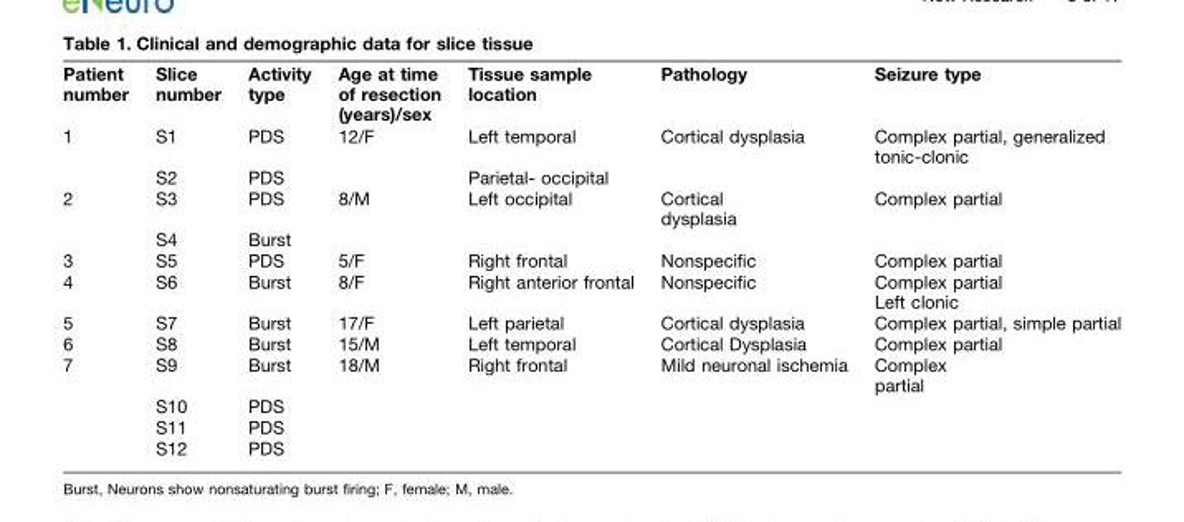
<table><tbody><tr><td>Patient number</td><td>Slice number</td><td>Activity type</td><td>Age at time of resection (years)/sex</td><td>Tissue sample location</td><td>Pathology</td><td>Seizure type</td></tr><tr><td rowspan="2">1</td><td>S1</td><td>PDS</td><td>12/F</td><td>Left temporal</td><td>Cortical dysplasia</td><td>Complex partial, generalized tonic-clonic</td></tr><tr><td>S2</td><td>PDS</td><td></td><td>Parietal- occipital</td><td></td><td></td></tr><tr><td rowspan="2">2</td><td>S3</td><td>PDS</td><td>8/M</td><td>Left occipital</td><td>Cortical dysplasia</td><td>Complex partial</td></tr><tr><td>S4</td><td>Burst</td><td></td><td></td><td></td><td></td></tr><tr><td>3</td><td>S5</td><td>PDS</td><td>5/F</td><td>Right frontal</td><td>Nonspecific</td><td>Complex partial</td></tr><tr><td>4</td><td>S6</td><td>Burst</td><td>8/F</td><td>Right anterior frontal</td><td>Nonspecific</td><td>Complex partial Left clonic</td></tr><tr><td>5</td><td>S7</td><td>Burst</td><td>17/F</td><td>Left parietal</td><td>Cortical dysplasia</td><td>Complex partial, simple partial</td></tr><tr><td>6</td><td>S8</td><td>Burst</td><td>15/M</td><td>Left temporal</td><td>Cortical Dysplasia</td><td>Complex partial</td></tr><tr><td rowspan="4">7</td><td>S9</td><td>Burst</td><td>18/M</td><td>Right frontal</td><td>Mild neuronal ischemia</td><td>Complex partial</td></tr><tr><td>S10</td><td>PDS</td><td></td><td></td><td></td><td></td></tr><tr><td>S11</td><td>PDS</td><td></td><td></td><td></td><td></td></tr><tr><td>S12</td><td>PDS</td><td></td><td></td><td></td><td></td></tr></tbody></table>